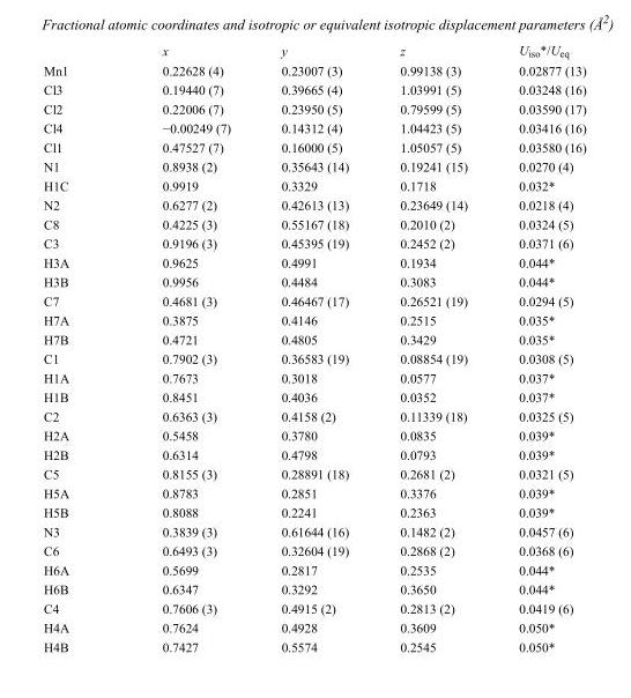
<table><thead><tr><td></td><td>x</td><td>y</td><td>z</td><td>U<sub>iso</sub>*/U<sub>eq</sub></td></tr></thead><tbody><tr><td>Mn1</td><td>0.22628 (4)</td><td>0.23007 (3)</td><td>0.99138 (3)</td><td>0.02877 (13)</td></tr><tr><td>Cl3</td><td>0.19440 (7)</td><td>0.39665 (4)</td><td>1.03991 (5)</td><td>0.03248 (16)</td></tr><tr><td>Cl2</td><td>0.22006 (7)</td><td>0.23950 (5)</td><td>0.79599 (5)</td><td>0.03590 (17)</td></tr><tr><td>Cl4</td><td>−0.00249 (7)</td><td>0.14312 (4)</td><td>1.04423 (5)</td><td>0.03416 (16)</td></tr><tr><td>Cl1</td><td>0.47527 (7)</td><td>0.16000 (5)</td><td>1.05057 (5)</td><td>0.03580 (16)</td></tr><tr><td>N1</td><td>0.8938 (2)</td><td>0.35643 (14)</td><td>0.19241 (15)</td><td>0.0270 (4)</td></tr><tr><td>H1C</td><td>0.9919</td><td>0.3329</td><td>0.1718</td><td>0.032*</td></tr><tr><td>N2</td><td>0.6277 (2)</td><td>0.42613 (13)</td><td>0.23649 (14)</td><td>0.0218 (4)</td></tr><tr><td>C8</td><td>0.4225 (3)</td><td>0.55167 (18)</td><td>0.2010 (2)</td><td>0.0324 (5)</td></tr><tr><td>C3</td><td>0.9196 (3)</td><td>0.45395 (19)</td><td>0.2452 (2)</td><td>0.0371 (6)</td></tr><tr><td>H3A</td><td>0.9625</td><td>0.4991</td><td>0.1934</td><td>0.044*</td></tr><tr><td>H3B</td><td>0.9956</td><td>0.4484</td><td>0.3083</td><td>0.044*</td></tr><tr><td>C7</td><td>0.4681 (3)</td><td>0.46467 (17)</td><td>0.26521 (19)</td><td>0.0294 (5)</td></tr><tr><td>H7A</td><td>0.3875</td><td>0.4146</td><td>0.2515</td><td>0.035*</td></tr><tr><td>H7B</td><td>0.4721</td><td>0.4805</td><td>0.3429</td><td>0.035*</td></tr><tr><td>C1</td><td>0.7902 (3)</td><td>0.36583 (19)</td><td>0.08854 (19)</td><td>0.0308 (5)</td></tr><tr><td>H1A</td><td>0.7673</td><td>0.3018</td><td>0.0577</td><td>0.037*</td></tr><tr><td>H1B</td><td>0.8451</td><td>0.4036</td><td>0.0352</td><td>0.037*</td></tr><tr><td>C2</td><td>0.6363 (3)</td><td>0.4158 (2)</td><td>0.11339 (18)</td><td>0.0325 (5)</td></tr><tr><td>H2A</td><td>0.5458</td><td>0.3780</td><td>0.0835</td><td>0.039*</td></tr><tr><td>H2B</td><td>0.6314</td><td>0.4798</td><td>0.0793</td><td>0.039*</td></tr><tr><td>C5</td><td>0.8155 (3)</td><td>0.28891 (18)</td><td>0.2681 (2)</td><td>0.0321 (5)</td></tr><tr><td>H5A</td><td>0.8783</td><td>0.2851</td><td>0.3376</td><td>0.039*</td></tr><tr><td>H5B</td><td>0.8088</td><td>0.2241</td><td>0.2363</td><td>0.039*</td></tr><tr><td>N3</td><td>0.3839 (3)</td><td>0.61644 (16)</td><td>0.1482 (2)</td><td>0.0457 (6)</td></tr><tr><td>C6</td><td>0.6493 (3)</td><td>0.32604 (19)</td><td>0.2868 (2)</td><td>0.0368 (6)</td></tr><tr><td>H6A</td><td>0.5699</td><td>0.2817</td><td>0.2535</td><td>0.044*</td></tr><tr><td>H6B</td><td>0.6347</td><td>0.3292</td><td>0.3650</td><td>0.044*</td></tr><tr><td>C4</td><td>0.7606 (3)</td><td>0.4915 (2)</td><td>0.2813 (2)</td><td>0.0419 (6)</td></tr><tr><td>H4A</td><td>0.7624</td><td>0.4928</td><td>0.3609</td><td>0.050*</td></tr><tr><td>H4B</td><td>0.7427</td><td>0.5574</td><td>0.2545</td><td>0.050*</td></tr></tbody></table>